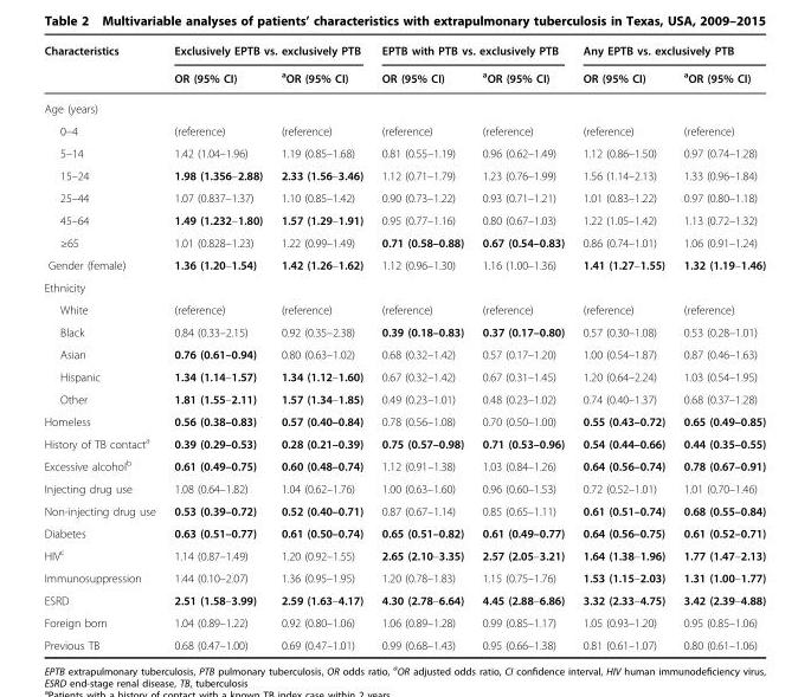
<table><thead><tr><td rowspan="2">Characteristics</td><td colspan="2">Exclusively EPTB vs. exclusively PTB</td><td colspan="2">EPTB with PTB vs. exclusively PTB</td><td colspan="2">Any EPTB vs. exclusively PTB</td></tr><tr><td>OR (95% CI)</td><td><sup>a</sup>OR (95% CI)</td><td>OR (95% CI)</td><td><sup>a</sup>OR (95% CI)</td><td>OR (95% CI)</td><td><sup>a</sup>OR (95% CI)</td></tr></thead><tbody><tr><td colspan="7">Age (years)</td></tr><tr><td>0–4</td><td>(reference)</td><td>(reference)</td><td>(reference)</td><td>(reference)</td><td>(reference)</td><td>(reference)</td></tr><tr><td>5–14</td><td>1.42 (1.04–1.96)</td><td>1.19 (0.85–1.68)</td><td>0.81 (0.55–1.19)</td><td>0.96 (0.62–1.49)</td><td>1.12 (0.86–1.50)</td><td>0.97 (0.74–1.28)</td></tr><tr><td>15–24</td><td>1.98 (1.356–2.88)</td><td>2.33 (1.56–3.46)</td><td>1.12 (0.71–1.79)</td><td>1.23 (0.76–1.99)</td><td>1.56 (1.14–2.13)</td><td>1.33 (0.96–1.84)</td></tr><tr><td>25–44</td><td>1.07 (0.837–1.37)</td><td>1.10 (0.85–1.42)</td><td>0.90 (0.73–1.22)</td><td>0.93 (0.71–1.21)</td><td>1.01 (0.83–1.22)</td><td>0.97 (0.80–1.18)</td></tr><tr><td>45–64</td><td>1.49 (1.232–1.80)</td><td>1.57 (1.29–1.91)</td><td>0.95 (0.77–1.16)</td><td>0.80 (0.67–1.03)</td><td>1.22 (1.05–1.42)</td><td>1.13 (0.72–1.32)</td></tr><tr><td>≥65</td><td>1.01 (0.828–1.23)</td><td>1.22 (0.99–1.49)</td><td>0.71 (0.58–0.88)</td><td>0.67 (0.54–0.83)</td><td>0.86 (0.74–1.01)</td><td>1.06 (0.91–1.24)</td></tr><tr><td>Gender (female)</td><td>1.36 (1.20–1.54)</td><td>1.42 (1.26–1.62)</td><td>1.12 (0.96–1.30)</td><td>1.16 (1.00–1.36)</td><td>1.41 (1.27–1.55)</td><td>1.32 (1.19–1.46)</td></tr><tr><td colspan="7">Ethnicity</td></tr><tr><td>White</td><td>(reference)</td><td>(reference)</td><td>(reference)</td><td>(reference)</td><td>(reference)</td><td>(reference)</td></tr><tr><td>Black</td><td>0.84 (0.33–2.15)</td><td>0.92 (0.35–2.38)</td><td>0.39 (0.18–0.83)</td><td>0.37 (0.17–0.80)</td><td>0.57 (0.30–1.08)</td><td>0.53 (0.28–1.01)</td></tr><tr><td>Asian</td><td>0.76 (0.61–0.94)</td><td>0.80 (0.63–1.02)</td><td>0.68 (0.32–1.42)</td><td>0.57 (0.17–1.20)</td><td>1.00 (0.54–1.87)</td><td>0.87 (0.46–1.63)</td></tr><tr><td>Hispanic</td><td>1.34 (1.14–1.57)</td><td>1.34 (1.12–1.60)</td><td>0.67 (0.32–1.42)</td><td>0.67 (0.31–1.45)</td><td>1.20 (0.64–2.24)</td><td>1.03 (0.54–1.95)</td></tr><tr><td>Other</td><td>1.81 (1.55–2.11)</td><td>1.57 (1.34–1.85)</td><td>0.49 (0.23–1.01)</td><td>0.48 (0.23–1.02)</td><td>0.74 (0.40–1.37)</td><td>0.68 (0.37–1.28)</td></tr><tr><td>Homeless</td><td>0.56 (0.38–0.83)</td><td>0.57 (0.40–0.84)</td><td>0.78 (0.56–1.08)</td><td>0.70 (0.50–1.00)</td><td>0.55 (0.43–0.72)</td><td>0.65 (0.49–0.85)</td></tr><tr><td>History of TB contact<sup>a</sup></td><td>0.39 (0.29–0.53)</td><td>0.28 (0.21–0.39)</td><td>0.75 (0.57–0.98)</td><td>0.71 (0.53–0.96)</td><td>0.54 (0.44–0.66)</td><td>0.44 (0.35–0.55)</td></tr><tr><td>Excessive alcohol<sup>b</sup></td><td>0.61 (0.49–0.75)</td><td>0.60 (0.48–0.74)</td><td>1.12 (0.91–1.38)</td><td>1.03 (0.84–1.26)</td><td>0.64 (0.56–0.74)</td><td>0.78 (0.67–0.91)</td></tr><tr><td>Injecting drug use</td><td>1.08 (0.64–1.82)</td><td>1.04 (0.62–1.76)</td><td>1.00 (0.63–1.60)</td><td>0.96 (0.60–1.53)</td><td>0.72 (0.52–1.01)</td><td>1.01 (0.70–1.46)</td></tr><tr><td>Non-injecting drug use</td><td>0.53 (0.39–0.72)</td><td>0.52 (0.40–0.71)</td><td>0.87 (0.67–1.14)</td><td>0.85 (0.65–1.11)</td><td>0.61 (0.51–0.74)</td><td>0.68 (0.55–0.84)</td></tr><tr><td>Diabetes</td><td>0.63 (0.51–0.77)</td><td>0.61 (0.50–0.74)</td><td>0.65 (0.51–0.82)</td><td>0.61 (0.49–0.77)</td><td>0.64 (0.56–0.75)</td><td>0.61 (0.52–0.71)</td></tr><tr><td>HIV<sup>c</sup></td><td>1.14 (0.87–1.49)</td><td>1.20 (0.92–1.55)</td><td>2.65 (2.10–3.35)</td><td>2.57 (2.05–3.21)</td><td>1.64 (1.38–1.96)</td><td>1.77 (1.47–2.13)</td></tr><tr><td>Immunosuppression</td><td>1.44 (0.10–2.07)</td><td>1.36 (0.95–1.95)</td><td>1.20 (0.78–1.83)</td><td>1.15 (0.75–1.76)</td><td>1.53 (1.15–2.03)</td><td>1.31 (1.00–1.77)</td></tr><tr><td>ESRD</td><td>2.51 (1.58–3.99)</td><td>2.59 (1.63–4.17)</td><td>4.30 (2.78–6.64)</td><td>4.45 (2.88–6.86)</td><td>3.32 (2.33–4.75)</td><td>3.42 (2.39–4.88)</td></tr><tr><td>Foreign born</td><td>1.04 (0.89–1.22)</td><td>0.92 (0.80–1.06)</td><td>1.06 (0.89–1.28)</td><td>0.99 (0.85–1.17)</td><td>1.05 (0.93–1.20)</td><td>0.95 (0.85–1.06)</td></tr><tr><td>Previous TB</td><td>0.68 (0.47–1.00)</td><td>0.69 (0.47–1.01)</td><td>0.99 (0.68–1.43)</td><td>0.95 (0.66–1.38)</td><td>0.81 (0.61–1.07)</td><td>0.80 (0.61–1.06)</td></tr></tbody></table>